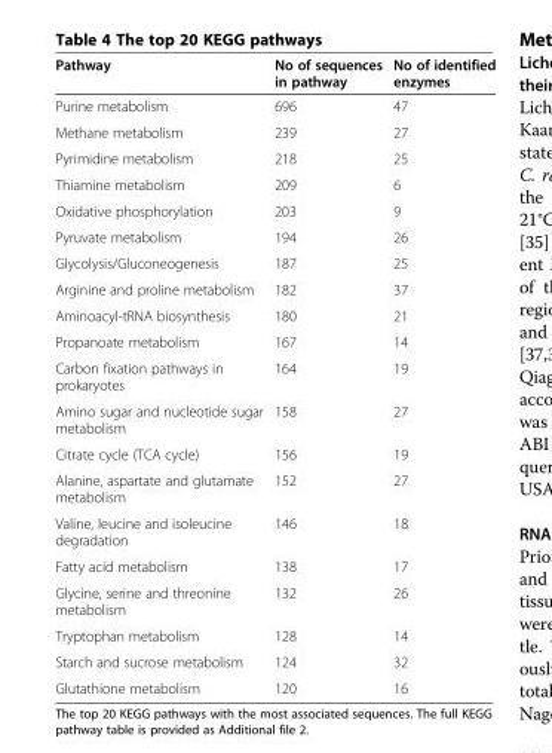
<table><thead><tr><td>Pathway</td><td>No of sequences in pathway</td><td>No of identified enzymes</td></tr></thead><tbody><tr><td>Purine metabolism</td><td>696</td><td>47</td></tr><tr><td>Methane metabolism</td><td>239</td><td>27</td></tr><tr><td>Pyrimidine metabolism</td><td>218</td><td>25</td></tr><tr><td>Thiamine metabolism</td><td>209</td><td>6</td></tr><tr><td>Oxidative phosphorylation</td><td>203</td><td>9</td></tr><tr><td>Pyruvate metabolism</td><td>194</td><td>26</td></tr><tr><td>Glycolysis/Gluconeogenesis</td><td>187</td><td>25</td></tr><tr><td>Arginine and proline metabolism</td><td>182</td><td>37</td></tr><tr><td>Aminoacyl-tRNA biosynthesis</td><td>180</td><td>21</td></tr><tr><td>Propanoate metabolism</td><td>167</td><td>14</td></tr><tr><td>Carbon fixation pathways in prokaryotes</td><td>164</td><td>19</td></tr><tr><td>Amino sugar and nucleotide sugar metabolism</td><td>158</td><td>27</td></tr><tr><td>Citrate cycle (TCA cycle)</td><td>156</td><td>19</td></tr><tr><td>Alanine, aspartate and glutamate metabolism</td><td>152</td><td>27</td></tr><tr><td>Valine, leucine and isoleucine degradation</td><td>146</td><td>18</td></tr><tr><td>Fatty acid metabolism</td><td>138</td><td>17</td></tr><tr><td>Glycine, serine and threonine metabolism</td><td>132</td><td>26</td></tr><tr><td>Tryptophan metabolism</td><td>128</td><td>14</td></tr><tr><td>Starch and sucrose metabolism</td><td>124</td><td>32</td></tr><tr><td>Glutathione metabolism</td><td>120</td><td>16</td></tr></tbody></table>